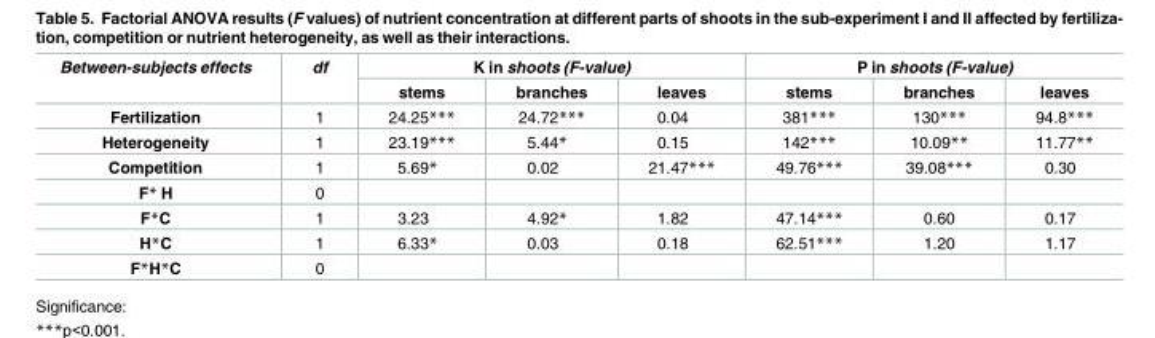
<table><thead><tr><td rowspan="2">Between-subjects effects</td><td rowspan="2">df</td><td colspan="3">K in shoots (F-value)</td><td colspan="3">P in shoots (F-value)</td></tr><tr><td>stems</td><td>branches</td><td>leaves</td><td>stems</td><td>branches</td><td>leaves</td></tr></thead><tbody><tr><td>Fertilization</td><td>1</td><td>24.25***</td><td>24.72***</td><td>0.04</td><td>381***</td><td>130***</td><td>94.8***</td></tr><tr><td>Heterogeneity</td><td>1</td><td>23.19***</td><td>5.44*</td><td>0.15</td><td>142***</td><td>10.09**</td><td>11.77**</td></tr><tr><td>Competition</td><td>1</td><td>5.69*</td><td>0.02</td><td>21.47***</td><td>49.76***</td><td>39.08***</td><td>0.30</td></tr><tr><td>F* H</td><td>0</td><td></td><td></td><td></td><td></td><td></td><td></td></tr><tr><td>F*C</td><td>1</td><td>3.23</td><td>4.92*</td><td>1.82</td><td>47.14***</td><td>0.60</td><td>0.17</td></tr><tr><td>H*C</td><td>1</td><td>6.33*</td><td>0.03</td><td>0.18</td><td>62.51***</td><td>1.20</td><td>1.17</td></tr><tr><td>F*H*C</td><td>0</td><td></td><td></td><td></td><td></td><td></td><td></td></tr></tbody></table>